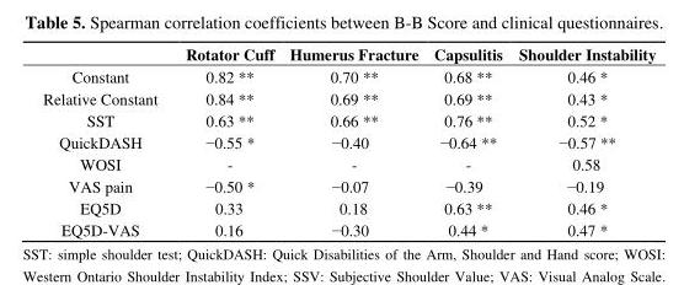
<table><thead><tr><td></td><td>Rotator Cuff</td><td>Humerus Fracture</td><td>Capsulitis</td><td>Shoulder Instability</td></tr></thead><tbody><tr><td>Constant</td><td>0.82 **</td><td>0.70 **</td><td>0.68 **</td><td>0.46 *</td></tr><tr><td>Relative Constant</td><td>0.84 **</td><td>0.69 **</td><td>0.69 **</td><td>0.43 *</td></tr><tr><td>SST</td><td>0.63 **</td><td>0.66 **</td><td>0.76 **</td><td>0.52 *</td></tr><tr><td>QuickDASH</td><td>−0.55 *</td><td>−0.40</td><td>−0.64 **</td><td>−0.57 **</td></tr><tr><td>WOSI</td><td>-</td><td>-</td><td>-</td><td>0.58</td></tr><tr><td>VAS pain</td><td>−0.50 *</td><td>−0.07</td><td>−0.39</td><td>−0.19</td></tr><tr><td>EQ5D</td><td>0.33</td><td>0.18</td><td>0.63 **</td><td>0.46 *</td></tr><tr><td>EQ5D-VAS</td><td>0.16</td><td>−0.30</td><td>0.44 *</td><td>0.47 *</td></tr></tbody></table>